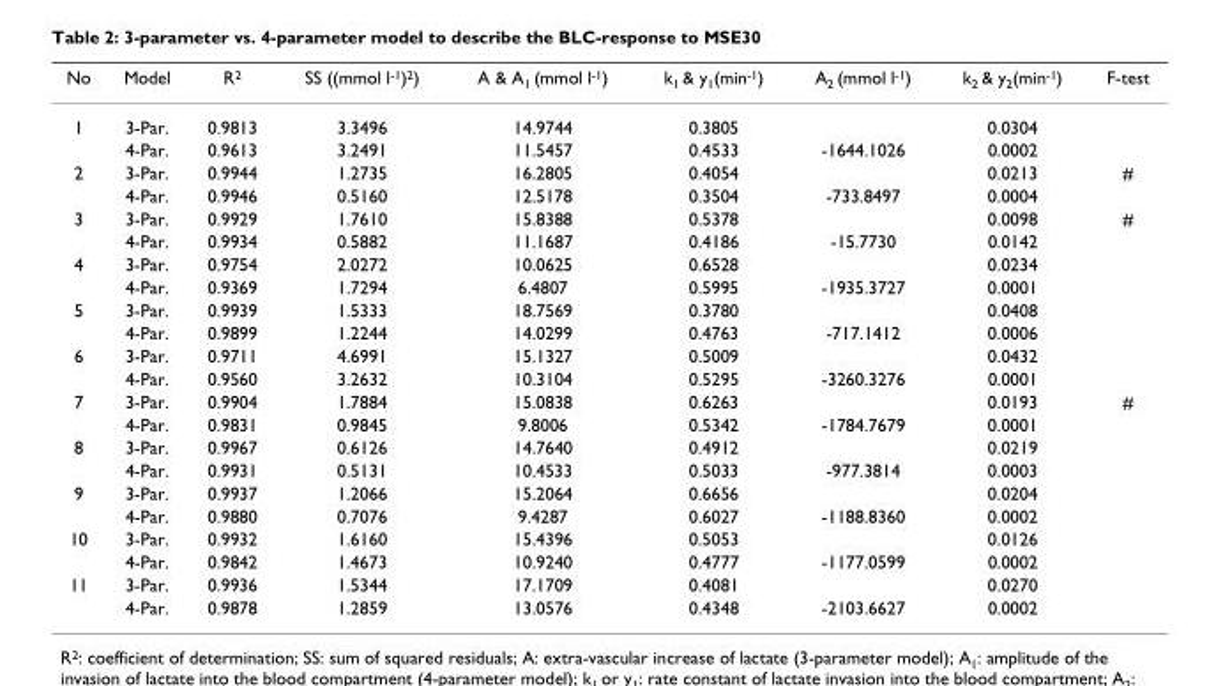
<table><thead><tr><td>No</td><td>Model</td><td>R<sup>2</sup></td><td>SS ((mmol l<sup>-1</sup>)<sup>2</sup>)</td><td>A &amp; A<sub>1</sub> (mmol l<sup>-1</sup>)</td><td>k<sub>1</sub> &amp; y<sub>1</sub>(min<sup>-1</sup>)</td><td>A<sub>2</sub> (mmol l<sup>-1</sup>)</td><td>k<sub>2</sub> &amp; y<sub>2</sub>(min<sup>-1</sup>)</td><td>F-test</td></tr></thead><tbody><tr><td rowspan="2">1</td><td>3-Par.</td><td>0.9813</td><td>3.3496</td><td>14.9744</td><td>0.3805</td><td></td><td>0.0304</td><td></td></tr><tr><td>4-Par.</td><td>0.9613</td><td>3.2491</td><td>11.5457</td><td>0.4533</td><td>-1644.1026</td><td>0.0002</td><td></td></tr><tr><td rowspan="2">2</td><td>3-Par.</td><td>0.9944</td><td>1.2735</td><td>16.2805</td><td>0.4054</td><td></td><td>0.0213</td><td>#</td></tr><tr><td>4-Par.</td><td>0.9946</td><td>0.5160</td><td>12.5178</td><td>0.3504</td><td>-733.8497</td><td>0.0004</td><td></td></tr><tr><td rowspan="2">3</td><td>3-Par.</td><td>0.9929</td><td>1.7610</td><td>15.8388</td><td>0.5378</td><td></td><td>0.0098</td><td>#</td></tr><tr><td>4-Par.</td><td>0.9934</td><td>0.5882</td><td>11.1687</td><td>0.4186</td><td>-15.7730</td><td>0.0142</td><td></td></tr><tr><td rowspan="2">4</td><td>3-Par.</td><td>0.9754</td><td>2.0272</td><td>10.0625</td><td>0.6528</td><td></td><td>0.0234</td><td></td></tr><tr><td>4-Par.</td><td>0.9369</td><td>1.7294</td><td>6.4807</td><td>0.5995</td><td>-1935.3727</td><td>0.0001</td><td></td></tr><tr><td rowspan="2">5</td><td>3-Par.</td><td>0.9939</td><td>1.5333</td><td>18.7569</td><td>0.3780</td><td></td><td>0.0408</td><td></td></tr><tr><td>4-Par.</td><td>0.9899</td><td>1.2244</td><td>14.0299</td><td>0.4763</td><td>-717.1412</td><td>0.0006</td><td></td></tr><tr><td rowspan="2">6</td><td>3-Par.</td><td>0.9711</td><td>4.6991</td><td>15.1327</td><td>0.5009</td><td></td><td>0.0432</td><td></td></tr><tr><td>4-Par.</td><td>0.9560</td><td>3.2632</td><td>10.3104</td><td>0.5295</td><td>-3260.3276</td><td>0.0001</td><td></td></tr><tr><td rowspan="2">7</td><td>3-Par.</td><td>0.9904</td><td>1.7884</td><td>15.0838</td><td>0.6263</td><td></td><td>0.0193</td><td>#</td></tr><tr><td>4-Par.</td><td>0.9831</td><td>0.9845</td><td>9.8006</td><td>0.5342</td><td>-1784.7679</td><td>0.0001</td><td></td></tr><tr><td rowspan="2">8</td><td>3-Par.</td><td>0.9967</td><td>0.6126</td><td>14.7640</td><td>0.4912</td><td></td><td>0.0219</td><td></td></tr><tr><td>4-Par.</td><td>0.9931</td><td>0.5131</td><td>10.4533</td><td>0.5033</td><td>-977.3814</td><td>0.0003</td><td></td></tr><tr><td rowspan="2">9</td><td>3-Par.</td><td>0.9937</td><td>1.2066</td><td>15.2064</td><td>0.6656</td><td></td><td>0.0204</td><td></td></tr><tr><td>4-Par.</td><td>0.9880</td><td>0.7076</td><td>9.4287</td><td>0.6027</td><td>-1188.8360</td><td>0.0002</td><td></td></tr><tr><td rowspan="2">10</td><td>3-Par.</td><td>0.9932</td><td>1.6160</td><td>15.4396</td><td>0.5053</td><td></td><td>0.0126</td><td></td></tr><tr><td>4-Par.</td><td>0.9842</td><td>1.4673</td><td>10.9240</td><td>0.4777</td><td>-1177.0599</td><td>0.0002</td><td></td></tr><tr><td rowspan="2">11</td><td>3-Par.</td><td>0.9936</td><td>1.5344</td><td>17.1709</td><td>0.4081</td><td></td><td>0.0270</td><td></td></tr><tr><td>4-Par.</td><td>0.9878</td><td>1.2859</td><td>13.0576</td><td>0.4348</td><td>-2103.6627</td><td>0.0002</td><td></td></tr></tbody></table>